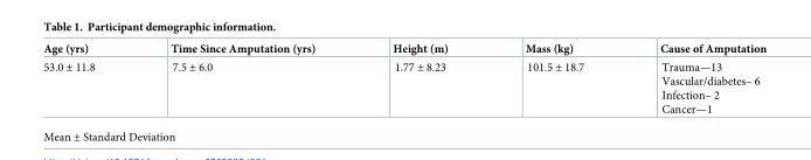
<table><thead><tr><td>Age (yrs)</td><td>Time Since Amputation (yrs)</td><td>Height (m)</td><td>Mass (kg)</td><td>Cause of Amputation</td></tr></thead><tbody><tr><td>53.0 ± 11.8</td><td>7.5 ± 6.0</td><td>1.77 ± 8.23</td><td>101.5 ± 18.7</td><td>Trauma—13 Vascular/diabetes– 6 Infection– 2 Cancer—1</td></tr></tbody></table>